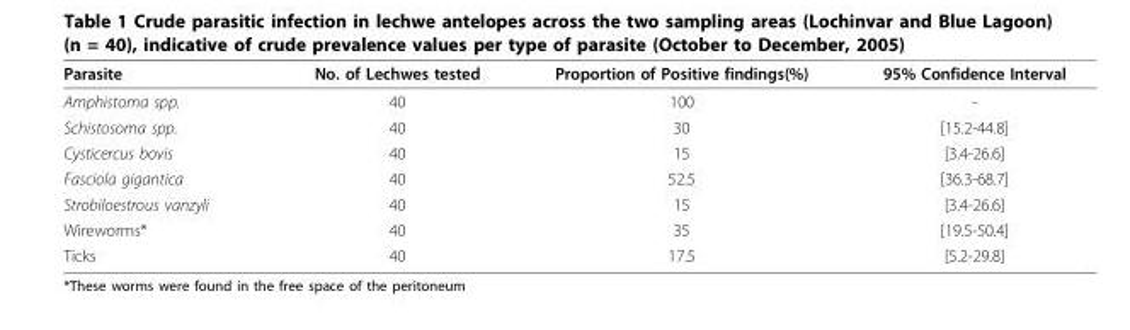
<table><thead><tr><td>Parasite</td><td>No. of Lechwes tested</td><td>Proportion of Positive findings(%)</td><td>95% Confidence Interval</td></tr></thead><tbody><tr><td>Amphistoma spp.</td><td>40</td><td>100</td><td>-</td></tr><tr><td>Schistosoma spp.</td><td>40</td><td>30</td><td>[15.2-44.8]</td></tr><tr><td>Cysticercus bovis</td><td>40</td><td>15</td><td>[3.4-26.6]</td></tr><tr><td>Fasciola gigantica</td><td>40</td><td>52.5</td><td>[36.3-68.7]</td></tr><tr><td>Strobiloestrous vanzyli</td><td>40</td><td>15</td><td>[3.4-26.6]</td></tr><tr><td>Wireworms*</td><td>40</td><td>35</td><td>[19.5-50.4]</td></tr><tr><td>Ticks</td><td>40</td><td>17.5</td><td>[5.2-29.8]</td></tr></tbody></table>